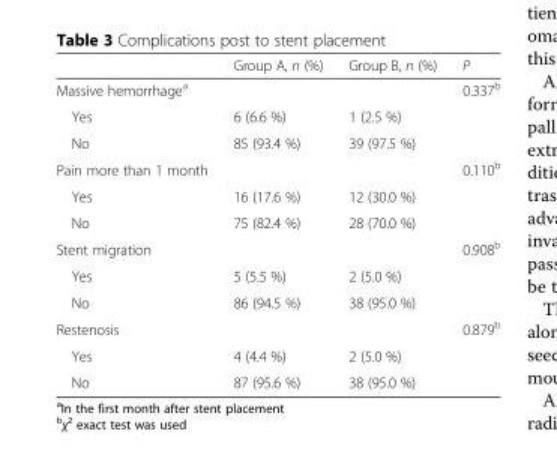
<table><thead><tr><td></td><td>Group A, n (%)</td><td>Group B, n (%)</td><td>P</td></tr></thead><tbody><tr><td>Massive hemorrhage<sup>a</sup></td><td></td><td></td><td>0.337<sup>b</sup></td></tr><tr><td>Yes</td><td>6 (6.6 %)</td><td>1 (2.5 %)</td><td></td></tr><tr><td>No</td><td>85 (93.4 %)</td><td>39 (97.5 %)</td><td></td></tr><tr><td>Pain more than 1 month</td><td></td><td></td><td>0.110<sup>b</sup></td></tr><tr><td>Yes</td><td>16 (17.6 %)</td><td>12 (30.0 %)</td><td></td></tr><tr><td>No</td><td>75 (82.4 %)</td><td>28 (70.0 %)</td><td></td></tr><tr><td>Stent migration</td><td></td><td></td><td>0.908<sup>b</sup></td></tr><tr><td>Yes</td><td>5 (5.5 %)</td><td>2 (5.0 %)</td><td></td></tr><tr><td>No</td><td>86 (94.5 %)</td><td>38 (95.0 %)</td><td></td></tr><tr><td>Restenosis</td><td></td><td></td><td>0.879<sup>b</sup></td></tr><tr><td>Yes</td><td>4 (4.4 %)</td><td>2 (5.0 %)</td><td></td></tr><tr><td>No</td><td>87 (95.6 %)</td><td>38 (95.0 %)</td><td></td></tr></tbody></table>